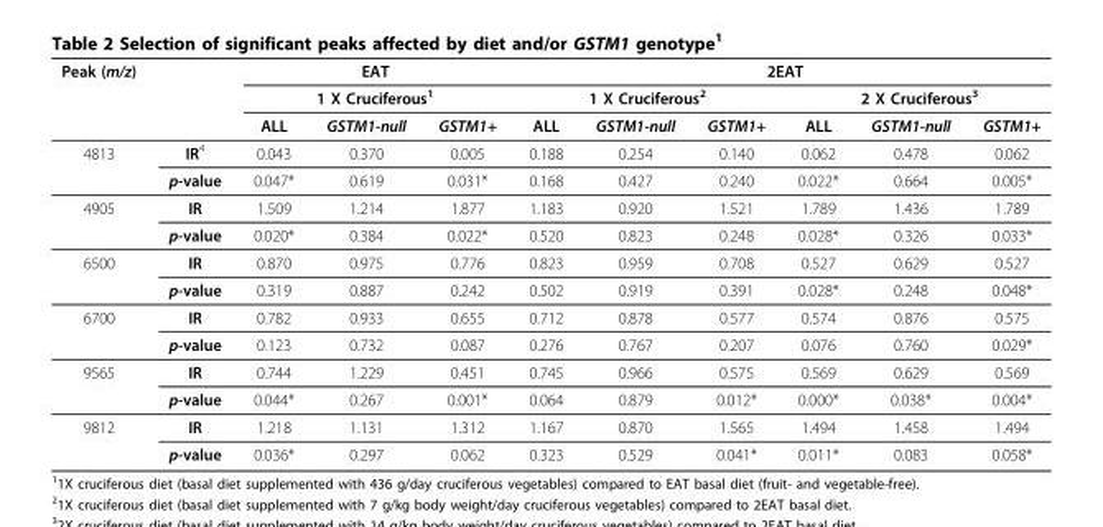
<table><thead><tr><td rowspan="3">Peak (m/z)</td><td rowspan="3"></td><td rowspan="2" colspan="3">EAT 1 X Cruciferous<sup>1</sup></td><td colspan="6">2EAT</td></tr><tr><td colspan="3">1 X Cruciferous<sup>2</sup></td><td colspan="3">2 X Cruciferous<sup>3</sup></td></tr><tr><td>ALL</td><td>GSTM1-null</td><td>GSTM1+</td><td>ALL</td><td>GSTM1-null</td><td>GSTM1+</td><td>ALL</td><td>GSTM1-null</td><td>GSTM1+</td></tr></thead><tbody><tr><td rowspan="2">4813</td><td>IR<sup>4</sup></td><td>0.043</td><td>0.370</td><td>0.005</td><td>0.188</td><td>0.254</td><td>0.140</td><td>0.062</td><td>0.478</td><td>0.062</td></tr><tr><td>p-value</td><td>0.047*</td><td>0.619</td><td>0.031*</td><td>0.168</td><td>0.427</td><td>0.240</td><td>0.022*</td><td>0.664</td><td>0.005*</td></tr><tr><td rowspan="2">4905</td><td>IR</td><td>1.509</td><td>1.214</td><td>1.877</td><td>1.183</td><td>0.920</td><td>1.521</td><td>1.789</td><td>1.436</td><td>1.789</td></tr><tr><td>p-value</td><td>0.020*</td><td>0.384</td><td>0.022*</td><td>0.520</td><td>0.823</td><td>0.248</td><td>0.028*</td><td>0.326</td><td>0.033*</td></tr><tr><td rowspan="2">6500</td><td>IR</td><td>0.870</td><td>0.975</td><td>0.776</td><td>0.823</td><td>0.959</td><td>0.708</td><td>0.527</td><td>0.629</td><td>0.527</td></tr><tr><td>p-value</td><td>0.319</td><td>0.887</td><td>0.242</td><td>0.502</td><td>0.919</td><td>0.391</td><td>0.028*</td><td>0.248</td><td>0.048*</td></tr><tr><td rowspan="2">6700</td><td>IR</td><td>0.782</td><td>0.933</td><td>0.655</td><td>0.712</td><td>0.878</td><td>0.577</td><td>0.574</td><td>0.876</td><td>0.575</td></tr><tr><td>p-value</td><td>0.123</td><td>0.732</td><td>0.087</td><td>0.276</td><td>0.767</td><td>0.207</td><td>0.076</td><td>0.760</td><td>0.029*</td></tr><tr><td rowspan="2">9565</td><td>IR</td><td>0.744</td><td>1.229</td><td>0.451</td><td>0.745</td><td>0.966</td><td>0.575</td><td>0.569</td><td>0.629</td><td>0.569</td></tr><tr><td>p-value</td><td>0.044*</td><td>0.267</td><td>0.001*</td><td>0.064</td><td>0.879</td><td>0.012*</td><td>0.000*</td><td>0.038*</td><td>0.004*</td></tr><tr><td rowspan="2">9812</td><td>IR</td><td>1.218</td><td>1.131</td><td>1.312</td><td>1.167</td><td>0.870</td><td>1.565</td><td>1.494</td><td>1.458</td><td>1.494</td></tr><tr><td>p-value</td><td>0.036*</td><td>0.297</td><td>0.062</td><td>0.323</td><td>0.529</td><td>0.041*</td><td>0.011*</td><td>0.083</td><td>0.058*</td></tr></tbody></table>